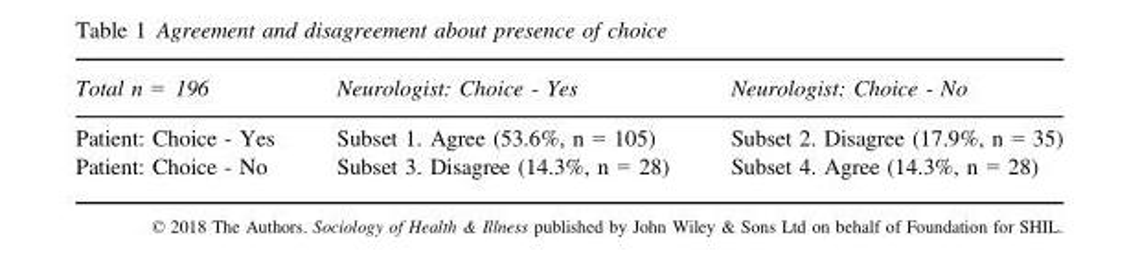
<table><thead><tr><td>Total n = 196</td><td>Neurologist: Choice - Yes</td><td>Neurologist: Choice - No</td></tr></thead><tbody><tr><td>Patient: Choice - Yes</td><td>Subset 1. Agree (53.6%, n = 105)</td><td>Subset 2. Disagree (17.9%, n = 35)</td></tr><tr><td>Patient: Choice - No</td><td>Subset 3. Disagree (14.3%, n = 28)</td><td>Subset 4. Agree (14.3%, n = 28)</td></tr></tbody></table>